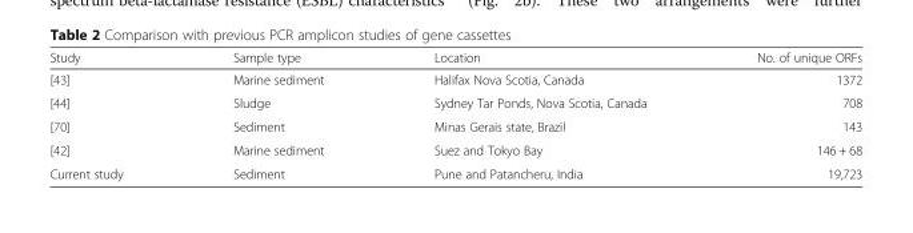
<table><thead><tr><td>Study</td><td>Sample type</td><td>Location</td><td>No. of unique ORFs</td></tr></thead><tbody><tr><td>[43]</td><td>Marine sediment</td><td>Halifax Nova Scotia, Canada</td><td>1372</td></tr><tr><td>[44]</td><td>Sludge</td><td>Sydney Tar Ponds, Nova Scotia, Canada</td><td>708</td></tr><tr><td>[70]</td><td>Sediment</td><td>Minas Gerais state, Brazil</td><td>143</td></tr><tr><td>[42]</td><td>Marine sediment</td><td>Suez and Tokyo Bay</td><td>146 + 68</td></tr><tr><td>Current study</td><td>Sediment</td><td>Pune and Patancheru, India</td><td>19,723</td></tr></tbody></table>